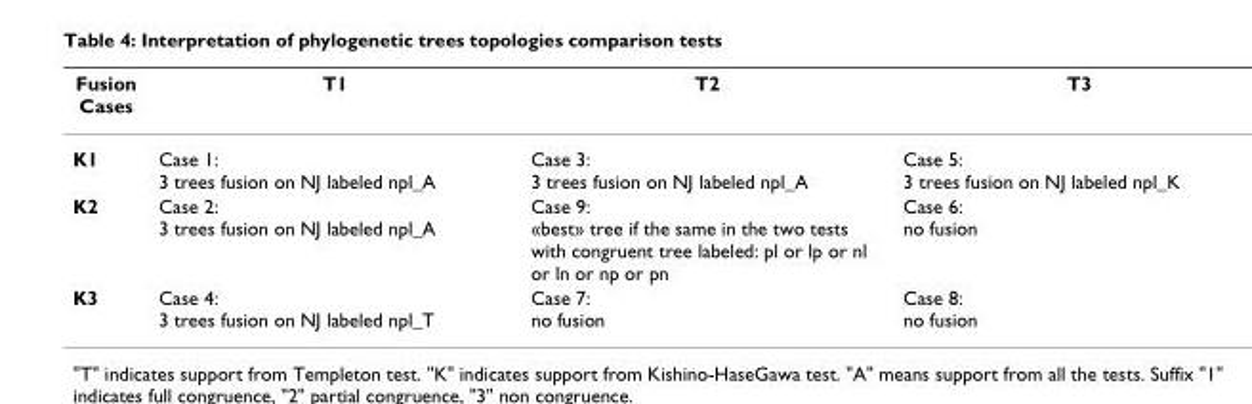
<table><thead><tr><td>Fusion Cases</td><td>T1</td><td>T2</td><td>T3</td></tr></thead><tbody><tr><td>K1</td><td>Case 1: 3 trees fusion on NJ labeled npl_A</td><td>Case 3: 3 trees fusion on NJ labeled npl_A</td><td>Case 5: 3 trees fusion on NJ labeled npl_K</td></tr><tr><td>K2</td><td>Case 2: 3 trees fusion on NJ labeled npl_A</td><td>Case 9: «best» tree if the same in the two tests with congruent tree labeled: pl or lp or nl or ln or np or pn</td><td>Case 6: no fusion</td></tr><tr><td>K3</td><td>Case 4: 3 trees fusion on NJ labeled npl_T</td><td>Case 7: no fusion</td><td>Case 8: no fusion</td></tr></tbody></table>